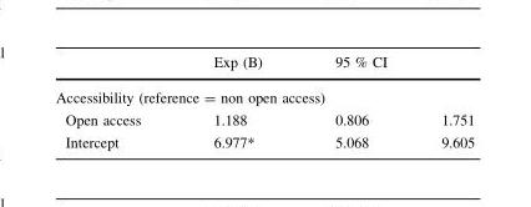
<table><thead><tr><td></td><td>Exp (B)</td><td colspan="2">95 % CI</td></tr><tr><td colspan="4">Accessibility (reference = non open access)</td></tr><tr><td>Open access</td><td>1.188</td><td>0.806</td><td>1.751</td></tr></thead><tbody><tr><td>Intercept</td><td>6.977*</td><td>5.068</td><td>9.605</td></tr></tbody></table>